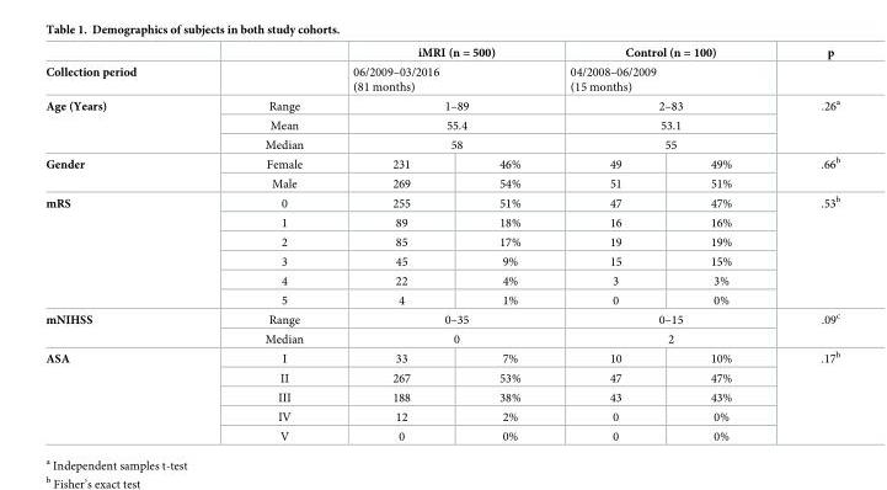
<table><thead><tr><td></td><td></td><td colspan="2">iMRI (n = 500)</td><td colspan="2">Control (n = 100)</td><td>p</td></tr></thead><tbody><tr><td>Collection period</td><td></td><td colspan="2">06/2009–03/2016 (81 months)</td><td colspan="2">04/2008–06/2009 (15 months)</td><td></td></tr><tr><td rowspan="3">Age (Years)</td><td>Range</td><td colspan="2">1–89</td><td colspan="2">2–83</td><td rowspan="3">.26<sup>a</sup></td></tr><tr><td>Mean</td><td colspan="2">55.4</td><td colspan="2">53.1</td></tr><tr><td>Median</td><td colspan="2">58</td><td colspan="2">55</td></tr><tr><td rowspan="2">Gender</td><td>Female</td><td>231</td><td>46%</td><td>49</td><td>49%</td><td rowspan="2">.66<sup>b</sup></td></tr><tr><td>Male</td><td>269</td><td>54%</td><td>51</td><td>51%</td></tr><tr><td rowspan="6">mRS</td><td>0</td><td>255</td><td>51%</td><td>47</td><td>47%</td><td rowspan="6">.53<sup>b</sup></td></tr><tr><td>1</td><td>89</td><td>18%</td><td>16</td><td>16%</td></tr><tr><td>2</td><td>85</td><td>17%</td><td>19</td><td>19%</td></tr><tr><td>3</td><td>45</td><td>9%</td><td>15</td><td>15%</td></tr><tr><td>4</td><td>22</td><td>4%</td><td>3</td><td>3%</td></tr><tr><td>5</td><td>4</td><td>1%</td><td>0</td><td>0%</td></tr><tr><td rowspan="2">mNIHSS</td><td>Range</td><td colspan="2">0–35</td><td colspan="2">0–15</td><td rowspan="2">.09<sup>c</sup></td></tr><tr><td>Median</td><td colspan="2">0</td><td colspan="2">2</td></tr><tr><td rowspan="5">ASA</td><td>I</td><td>33</td><td>7%</td><td>10</td><td>10%</td><td rowspan="5">.17<sup>b</sup></td></tr><tr><td>II</td><td>267</td><td>53%</td><td>47</td><td>47%</td></tr><tr><td>III</td><td>188</td><td>38%</td><td>43</td><td>43%</td></tr><tr><td>IV</td><td>12</td><td>2%</td><td>0</td><td>0%</td></tr><tr><td>V</td><td>0</td><td>0%</td><td>0</td><td>0%</td></tr></tbody></table>